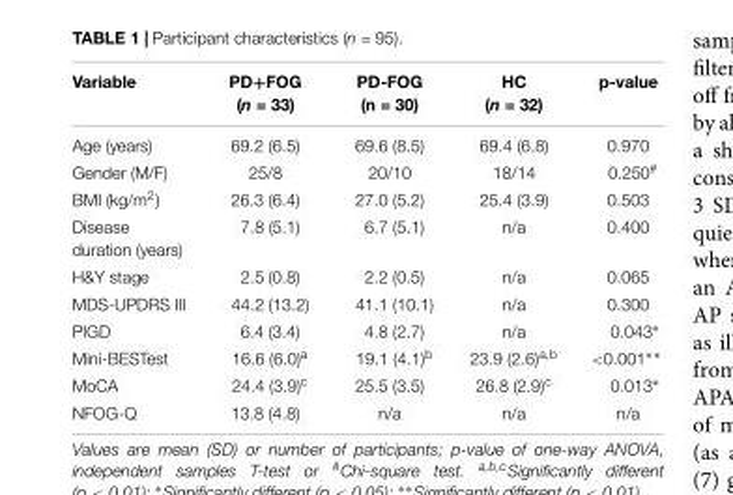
<table><thead><tr><td>Variable</td><td>PD+FOG (n = 33)</td><td>PD-FOG (n = 30)</td><td>HC (n = 32)</td><td>p-value</td></tr></thead><tbody><tr><td>Age (years)</td><td>69.2 (6.5)</td><td>69.6 (8.5)</td><td>69.4 (6.8)</td><td>0.970</td></tr><tr><td>Gender (M/F)</td><td>25/8</td><td>20/10</td><td>18/14</td><td>0.250<sup>#</sup></td></tr><tr><td>BMI (kg/m<sup>2</sup>)</td><td>26.3 (6.4)</td><td>27.0 (5.2)</td><td>25.4 (3.9)</td><td>0.503</td></tr><tr><td>Disease duration (years)</td><td>7.8 (5.1)</td><td>6.7 (5.1)</td><td>n/a</td><td>0.400</td></tr><tr><td>H&amp;Y stage</td><td>2.5 (0.8)</td><td>2.2 (0.5)</td><td>n/a</td><td>0.065</td></tr><tr><td>MDS-UPDRS III</td><td>44.2 (13.2)</td><td>41.1 (10.1)</td><td>n/a</td><td>0.300</td></tr><tr><td>PIGD</td><td>6.4 (3.4)</td><td>4.8 (2.7)</td><td>n/a</td><td>0.043∗</td></tr><tr><td>Mini-BESTest</td><td>16.6 (6.0)<sup>a</sup></td><td>19.1 (4.1)<sup>b</sup></td><td>23.9 (2.6)<sup>a,b</sup></td><td>&lt;0.001∗∗</td></tr><tr><td>MoCA</td><td>24.4 (3.9)<sup>c</sup></td><td>25.5 (3.5)</td><td>26.8 (2.9)<sup>c</sup></td><td>0.013∗</td></tr><tr><td>NFOG-Q</td><td>13.8 (4.8)</td><td>n/a</td><td>n/a</td><td>n/a</td></tr></tbody></table>